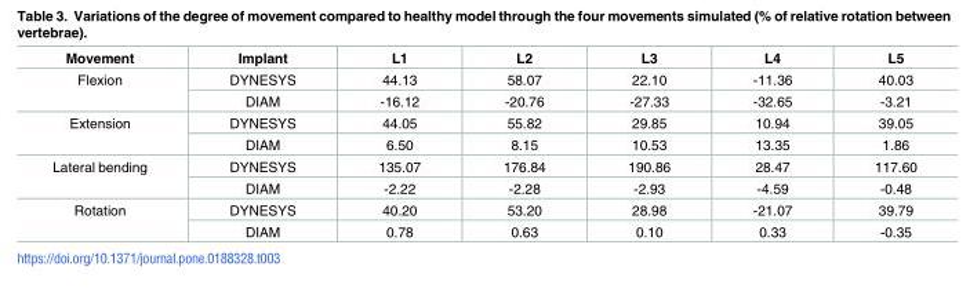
<table><thead><tr><td>Movement</td><td>Implant</td><td>L1</td><td>L2</td><td>L3</td><td>L4</td><td>L5</td></tr></thead><tbody><tr><td rowspan="2">Flexion</td><td>DYNESYS</td><td>44.13</td><td>58.07</td><td>22.10</td><td>-11.36</td><td>40.03</td></tr><tr><td>DIAM</td><td>-16.12</td><td>-20.76</td><td>-27.33</td><td>-32.65</td><td>-3.21</td></tr><tr><td rowspan="2">Extension</td><td>DYNESYS</td><td>44.05</td><td>55.82</td><td>29.85</td><td>10.94</td><td>39.05</td></tr><tr><td>DIAM</td><td>6.50</td><td>8.15</td><td>10.53</td><td>13.35</td><td>1.86</td></tr><tr><td rowspan="2">Lateral bending</td><td>DYNESYS</td><td>135.07</td><td>176.84</td><td>190.86</td><td>28.47</td><td>117.60</td></tr><tr><td>DIAM</td><td>-2.22</td><td>-2.28</td><td>-2.93</td><td>-4.59</td><td>-0.48</td></tr><tr><td rowspan="2">Rotation</td><td>DYNESYS</td><td>40.20</td><td>53.20</td><td>28.98</td><td>-21.07</td><td>39.79</td></tr><tr><td>DIAM</td><td>0.78</td><td>0.63</td><td>0.10</td><td>0.33</td><td>-0.35</td></tr></tbody></table>